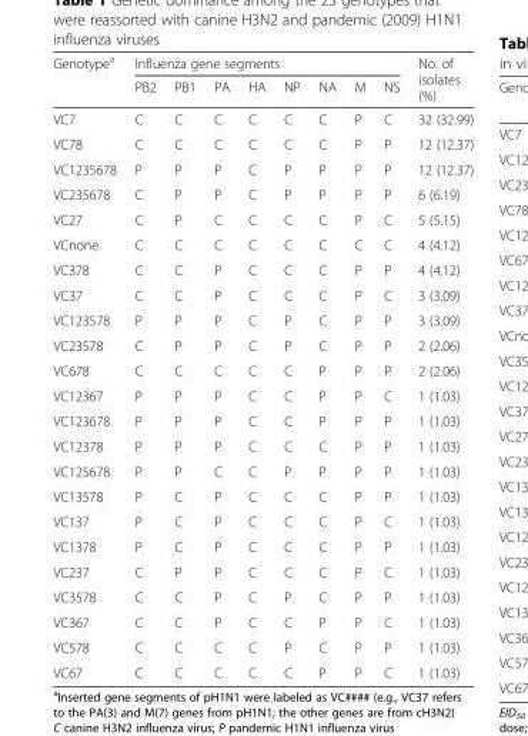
<table><thead><tr><td rowspan="2">Genotype<sup>a</sup></td><td colspan="8">Influenza gene segments</td><td rowspan="2">No. of isolates (%)</td></tr><tr><td>PB2</td><td>PB1</td><td>PA</td><td>HA</td><td>NP</td><td>NA</td><td>M</td><td>NS</td></tr></thead><tbody><tr><td>VC7</td><td>C</td><td>C</td><td>C</td><td>C</td><td>C</td><td>C</td><td>P</td><td>C</td><td>32 (32.99)</td></tr><tr><td>VC78</td><td>C</td><td>C</td><td>C</td><td>C</td><td>C</td><td>C</td><td>P</td><td>P</td><td>12 (12.37)</td></tr><tr><td>VC1235678</td><td>P</td><td>P</td><td>P</td><td>C</td><td>P</td><td>P</td><td>P</td><td>P</td><td>12 (12.37)</td></tr><tr><td>VC235678</td><td>C</td><td>P</td><td>P</td><td>C</td><td>P</td><td>P</td><td>P</td><td>P</td><td>6 (6.19)</td></tr><tr><td>VC27</td><td>C</td><td>P</td><td>C</td><td>C</td><td>C</td><td>C</td><td>P</td><td>C</td><td>5 (5.15)</td></tr><tr><td>VCnone</td><td>C</td><td>C</td><td>C</td><td>C</td><td>C</td><td>C</td><td>C</td><td>C</td><td>4 (4.12)</td></tr><tr><td>VC378</td><td>C</td><td>C</td><td>P</td><td>C</td><td>C</td><td>C</td><td>P</td><td>P</td><td>4 (4.12)</td></tr><tr><td>VC37</td><td>C</td><td>C</td><td>P</td><td>C</td><td>C</td><td>C</td><td>P</td><td>C</td><td>3 (3.09)</td></tr><tr><td>VC123578</td><td>P</td><td>P</td><td>P</td><td>C</td><td>P</td><td>C</td><td>P</td><td>P</td><td>3 (3.09)</td></tr><tr><td>VC23578</td><td>C</td><td>P</td><td>P</td><td>C</td><td>P</td><td>C</td><td>P</td><td>P</td><td>2 (2.06)</td></tr><tr><td>VC678</td><td>C</td><td>C</td><td>C</td><td>C</td><td>C</td><td>P</td><td>P</td><td>P</td><td>2 (2.06)</td></tr><tr><td>VC12367</td><td>P</td><td>P</td><td>P</td><td>C</td><td>C</td><td>P</td><td>P</td><td>C</td><td>1 (1.03)</td></tr><tr><td>VC123678</td><td>P</td><td>P</td><td>P</td><td>C</td><td>C</td><td>P</td><td>P</td><td>P</td><td>1 (1.03)</td></tr><tr><td>VC12378</td><td>P</td><td>P</td><td>P</td><td>C</td><td>C</td><td>C</td><td>P</td><td>P</td><td>1 (1.03)</td></tr><tr><td>VC125678</td><td>P</td><td>P</td><td>C</td><td>C</td><td>P</td><td>P</td><td>P</td><td>P</td><td>1 (1.03)</td></tr><tr><td>VC13578</td><td>P</td><td>C</td><td>P</td><td>C</td><td>C</td><td>C</td><td>P</td><td>P</td><td>1 (1.03)</td></tr><tr><td>VC137</td><td>P</td><td>C</td><td>P</td><td>C</td><td>C</td><td>C</td><td>P</td><td>C</td><td>1 (1.03)</td></tr><tr><td>VC1378</td><td>P</td><td>C</td><td>P</td><td>C</td><td>C</td><td>C</td><td>P</td><td>P</td><td>1 (1.03)</td></tr><tr><td>VC237</td><td>C</td><td>P</td><td>P</td><td>C</td><td>C</td><td>C</td><td>P</td><td>C</td><td>1 (1.03)</td></tr><tr><td>VC3578</td><td>C</td><td>C</td><td>P</td><td>C</td><td>P</td><td>C</td><td>P</td><td>P</td><td>1 (1.03)</td></tr><tr><td>VC367</td><td>C</td><td>C</td><td>P</td><td>C</td><td>C</td><td>P</td><td>P</td><td>C</td><td>1 (1.03)</td></tr><tr><td>VC578</td><td>C</td><td>C</td><td>C</td><td>C</td><td>P</td><td>C</td><td>P</td><td>P</td><td>1 (1.03)</td></tr><tr><td>VC67</td><td>C</td><td>C</td><td>C</td><td>C</td><td>C</td><td>P</td><td>P</td><td>C</td><td>1 (1.03)</td></tr></tbody></table>